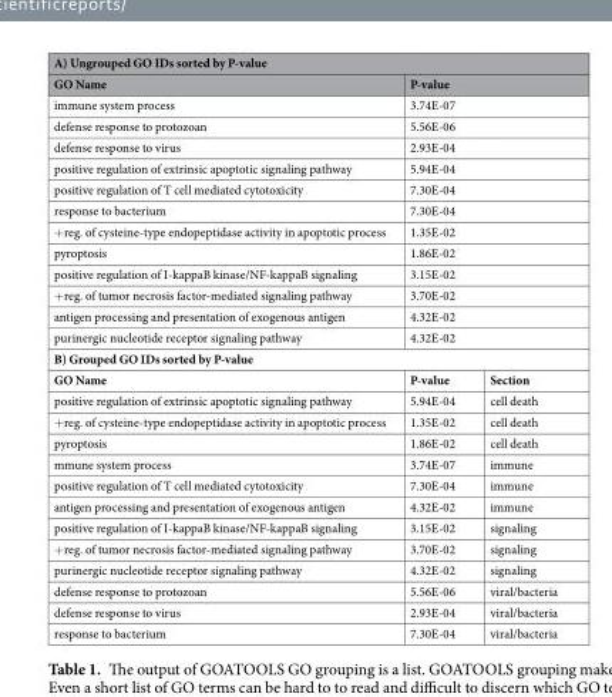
<table><thead><tr><td colspan="3">A) Ungrouped GO IDs sorted by P-value</td></tr><tr><td>GO Name</td><td colspan="2">P-value</td></tr></thead><tbody><tr><td>immune system process</td><td colspan="2">3.74E-07</td></tr><tr><td>defense response to protozoan</td><td colspan="2">5.56E-06</td></tr><tr><td>defense response to virus</td><td colspan="2">2.93E-04</td></tr><tr><td>positive regulation of extrinsic apoptotic signaling pathway</td><td colspan="2">5.94E-04</td></tr><tr><td>positive regulation of T cell mediated cytotoxicity</td><td colspan="2">7.30E-04</td></tr><tr><td>response to bacterium</td><td colspan="2">7.30E-04</td></tr><tr><td>+reg. of cysteine-type endopeptidase activity in apoptotic process</td><td colspan="2">1.35E-02</td></tr><tr><td>pyroptosis</td><td colspan="2">1.86E-02</td></tr><tr><td>positive regulation of I-kappaB kinase/NF-kappaB signaling</td><td colspan="2">3.15E-02</td></tr><tr><td>+reg. of tumor necrosis factor-mediated signaling pathway</td><td colspan="2">3.70E-02</td></tr><tr><td>antigen processing and presentation of exogenous antigen</td><td colspan="2">4.32E-02</td></tr><tr><td>purinergic nucleotide receptor signaling pathway</td><td colspan="2">4.32E-02</td></tr><tr><td colspan="3">B) Grouped GO IDs sorted by P-value</td></tr><tr><td>GO Name</td><td>P-value</td><td>Section</td></tr><tr><td>positive regulation of extrinsic apoptotic signaling pathway</td><td>5.94E-04</td><td>cell death</td></tr><tr><td>+reg. of cysteine-type endopeptidase activity in apoptotic process</td><td>1.35E-02</td><td>cell death</td></tr><tr><td>pyroptosis</td><td>1.86E-02</td><td>cell death</td></tr><tr><td>mmune system process</td><td>3.74E-07</td><td>immune</td></tr><tr><td>positive regulation of T cell mediated cytotoxicity</td><td>7.30E-04</td><td>immune</td></tr><tr><td>antigen processing and presentation of exogenous antigen</td><td>4.32E-02</td><td>immune</td></tr><tr><td>positive regulation of I-kappaB kinase/NF-kappaB signaling</td><td>3.15E-02</td><td>signaling</td></tr><tr><td>+reg. of tumor necrosis factor-mediated signaling pathway</td><td>3.70E-02</td><td>signaling</td></tr><tr><td>purinergic nucleotide receptor signaling pathway</td><td>4.32E-02</td><td>signaling</td></tr><tr><td>defense response to protozoan</td><td>5.56E-06</td><td>viral/bacteria</td></tr><tr><td>defense response to virus</td><td>2.93E-04</td><td>viral/bacteria</td></tr><tr><td>response to bacterium</td><td>7.30E-04</td><td>viral/bacteria</td></tr></tbody></table>